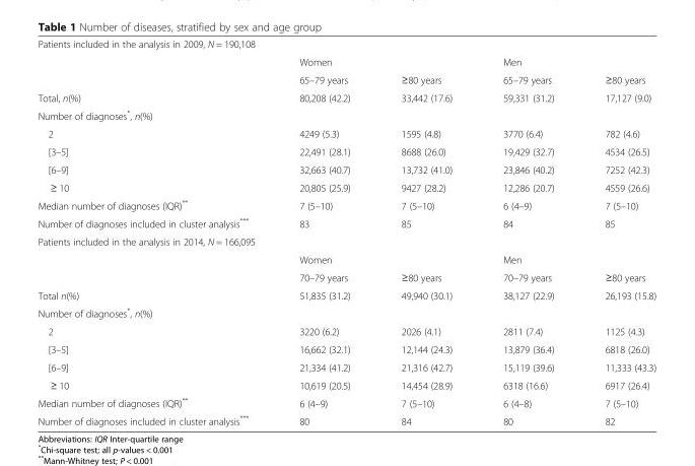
<table><tbody><tr><td colspan="5">Patients included in the analysis in 2009, N = 190,108</td></tr><tr><td rowspan="2"></td><td colspan="2">Women</td><td colspan="2">Men</td></tr><tr><td>65–79 years</td><td>≥80 years</td><td>65–79 years</td><td>≥80 years</td></tr><tr><td>Total, n(%)</td><td>80,208 (42.2)</td><td>33,442 (17.6)</td><td>59,331 (31.2)</td><td>17,127 (9.0)</td></tr><tr><td colspan="5">Number of diagnoses*, n(%)</td></tr><tr><td>2</td><td>4249 (5.3)</td><td>1595 (4.8)</td><td>3770 (6.4)</td><td>782 (4.6)</td></tr><tr><td>[3–5]</td><td>22,491 (28.1)</td><td>8688 (26.0)</td><td>19,429 (32.7)</td><td>4534 (26.5)</td></tr><tr><td>[6–9]</td><td>32,663 (40.7)</td><td>13,732 (41.0)</td><td>23,846 (40.2)</td><td>7252 (42.3)</td></tr><tr><td>≥ 10</td><td>20,805 (25.9)</td><td>9427 (28.2)</td><td>12,286 (20.7)</td><td>4559 (26.6)</td></tr><tr><td>Median number of diagnoses (IQR)**</td><td>7 (5–10)</td><td>7 (5–10)</td><td>6 (4–9)</td><td>7 (5–10)</td></tr><tr><td>Number of diagnoses included in cluster analysis***</td><td>83</td><td>85</td><td>84</td><td>85</td></tr><tr><td colspan="5">Patients included in the analysis in 2014, N = 166,095</td></tr><tr><td rowspan="2"></td><td colspan="2">Women</td><td colspan="2">Men</td></tr><tr><td>70–79 years</td><td>≥80 years</td><td>70–79 years</td><td>≥80 years</td></tr><tr><td>Total n(%)</td><td>51,835 (31.2)</td><td>49,940 (30.1)</td><td>38,127 (22.9)</td><td>26,193 (15.8)</td></tr><tr><td colspan="5">Number of diagnoses*, n(%)</td></tr><tr><td>2</td><td>3220 (6.2)</td><td>2026 (4.1)</td><td>2811 (7.4)</td><td>1125 (4.3)</td></tr><tr><td>[3–5]</td><td>16,662 (32.1)</td><td>12,144 (24.3)</td><td>13,879 (36.4)</td><td>6818 (26.0)</td></tr><tr><td>[6–9]</td><td>21,334 (41.2)</td><td>21,316 (42.7)</td><td>15,119 (39.6)</td><td>11,333 (43.3)</td></tr><tr><td>≥ 10</td><td>10,619 (20.5)</td><td>14,454 (28.9)</td><td>6318 (16.6)</td><td>6917 (26.4)</td></tr><tr><td>Median number of diagnoses (IQR)**</td><td>6 (4–9)</td><td>7 (5–10)</td><td>6 (4–8)</td><td>7 (5–10)</td></tr><tr><td>Number of diagnoses included in cluster analysis***</td><td>80</td><td>84</td><td>80</td><td>82</td></tr></tbody></table>